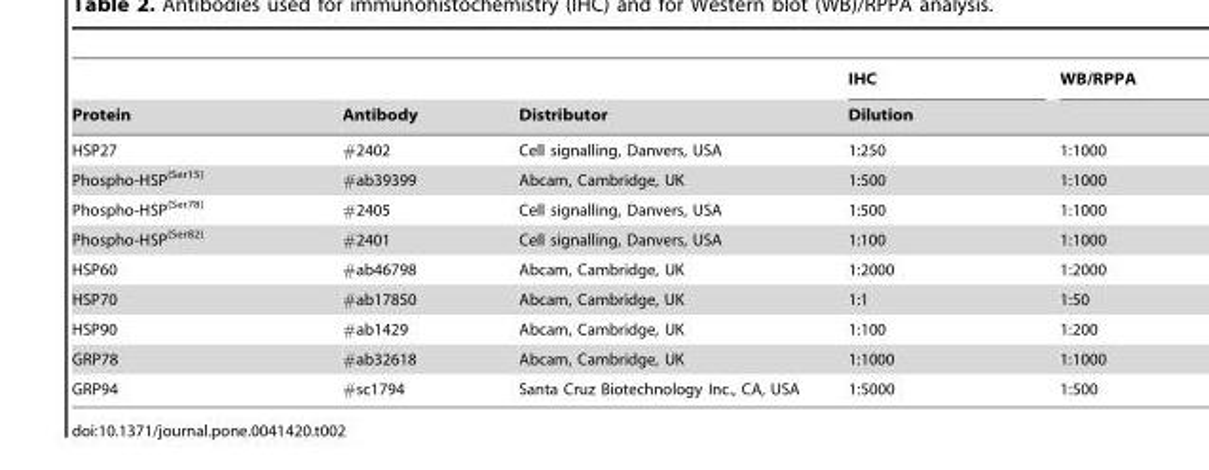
<table><thead><tr><td rowspan="2">Protein</td><td rowspan="2">Antibody</td><td rowspan="2">Distributor</td><td>IHC</td><td>WB/RPPA</td></tr><tr><td colspan="2">Dilution</td></tr></thead><tbody><tr><td>HSP27</td><td>#2402</td><td>Cell signalling, Danvers, USA</td><td>1:250</td><td>1:1000</td></tr><tr><td>Phospho-HSP<sup>(Ser15)</sup></td><td>#ab39399</td><td>Abcam, Cambridge, UK</td><td>1:500</td><td>1:1000</td></tr><tr><td>Phospho-HSP<sup>(Ser78)</sup></td><td>#2405</td><td>Cell signalling, Danvers, USA</td><td>1:500</td><td>1:1000</td></tr><tr><td>Phospho-HSP<sup>(Ser82)</sup></td><td>#2401</td><td>Cell signalling, Danvers, USA</td><td>1:100</td><td>1:1000</td></tr><tr><td>HSP60</td><td>#ab46798</td><td>Abcam, Cambridge, UK</td><td>1:2000</td><td>1:2000</td></tr><tr><td>HSP70</td><td>#ab17850</td><td>Abcam, Cambridge, UK</td><td>1:1</td><td>1:50</td></tr><tr><td>HSP90</td><td>#ab1429</td><td>Abcam, Cambridge, UK</td><td>1:100</td><td>1:200</td></tr><tr><td>GRP78</td><td>#ab32618</td><td>Abcam, Cambridge, UK</td><td>1:1000</td><td>1:1000</td></tr><tr><td>GRP94</td><td>#sc1794</td><td>Santa Cruz Biotechnology Inc., CA, USA</td><td>1:5000</td><td>1:500</td></tr></tbody></table>